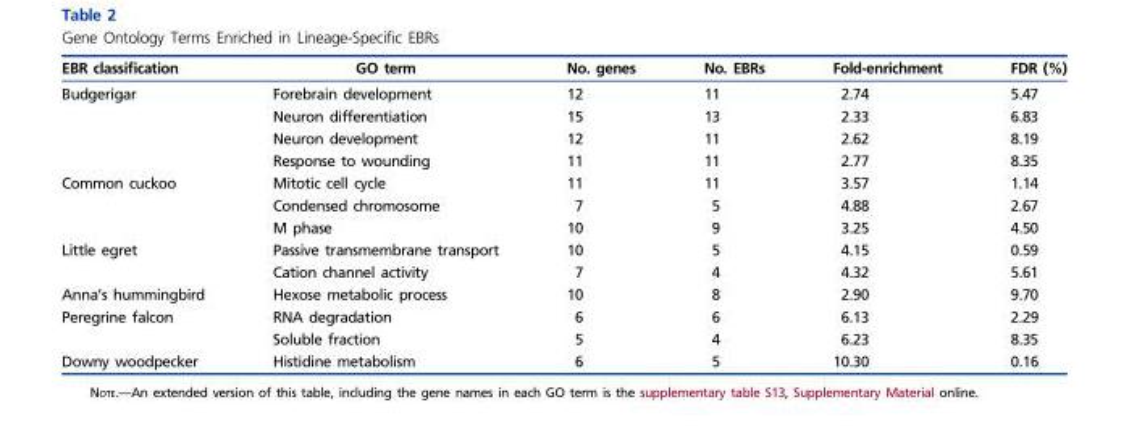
<table><thead><tr><td>EBR classification</td><td>GO term</td><td>No. genes</td><td>No. EBRs</td><td>Fold-enrichment</td><td>FDR (%)</td></tr></thead><tbody><tr><td rowspan="4">Budgerigar</td><td>Forebrain development</td><td>12</td><td>11</td><td>2.74</td><td>5.47</td></tr><tr><td>Neuron differentiation</td><td>15</td><td>13</td><td>2.33</td><td>6.83</td></tr><tr><td>Neuron development</td><td>12</td><td>11</td><td>2.62</td><td>8.19</td></tr><tr><td>Response to wounding</td><td>11</td><td>11</td><td>2.77</td><td>8.35</td></tr><tr><td rowspan="3">Common cuckoo</td><td>Mitotic cell cycle</td><td>11</td><td>11</td><td>3.57</td><td>1.14</td></tr><tr><td>Condensed chromosome</td><td>7</td><td>5</td><td>4.88</td><td>2.67</td></tr><tr><td>M phase</td><td>10</td><td>9</td><td>3.25</td><td>4.50</td></tr><tr><td rowspan="2">Little egret</td><td>Passive transmembrane transport</td><td>10</td><td>5</td><td>4.15</td><td>0.59</td></tr><tr><td>Cation channel activity</td><td>7</td><td>4</td><td>4.32</td><td>5.61</td></tr><tr><td>Anna’s hummingbird</td><td>Hexose metabolic process</td><td>10</td><td>8</td><td>2.90</td><td>9.70</td></tr><tr><td rowspan="2">Peregrine falcon</td><td>RNA degradation</td><td>6</td><td>6</td><td>6.13</td><td>2.29</td></tr><tr><td>Soluble fraction</td><td>5</td><td>4</td><td>6.23</td><td>8.35</td></tr><tr><td>Downy woodpecker</td><td>Histidine metabolism</td><td>6</td><td>5</td><td>10.30</td><td>0.16</td></tr></tbody></table>